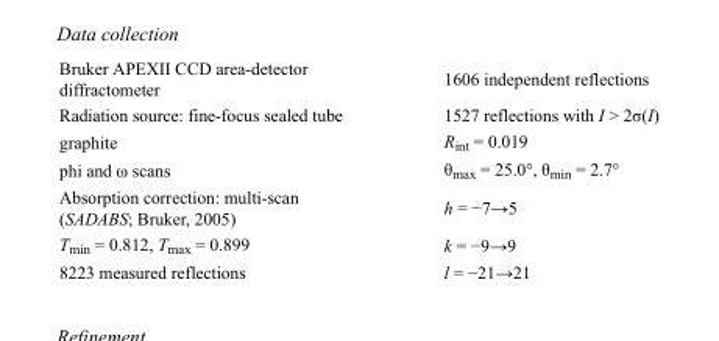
<table><tbody><tr><td>Bruker APEXII CCD area-detector diffractometer</td><td>1606 independent reflections</td></tr><tr><td>Radiation source: fine-focus sealed tube</td><td>1527 reflections with I &gt; 2σ(I)</td></tr><tr><td>graphite</td><td>R<sub>int</sub> = 0.019</td></tr><tr><td>phi and ω scans</td><td>θ<sub>max</sub> = 25.0°, θ<sub>min</sub> = 2.7°</td></tr><tr><td>Absorption correction: multi-scan (SADABS; Bruker, 2005)</td><td>h = −7→5</td></tr><tr><td>T<sub>min</sub> = 0.812, T<sub>max</sub> = 0.899</td><td>k = −9→9</td></tr><tr><td>8223 measured reflections</td><td>l = −21→21</td></tr></tbody></table>